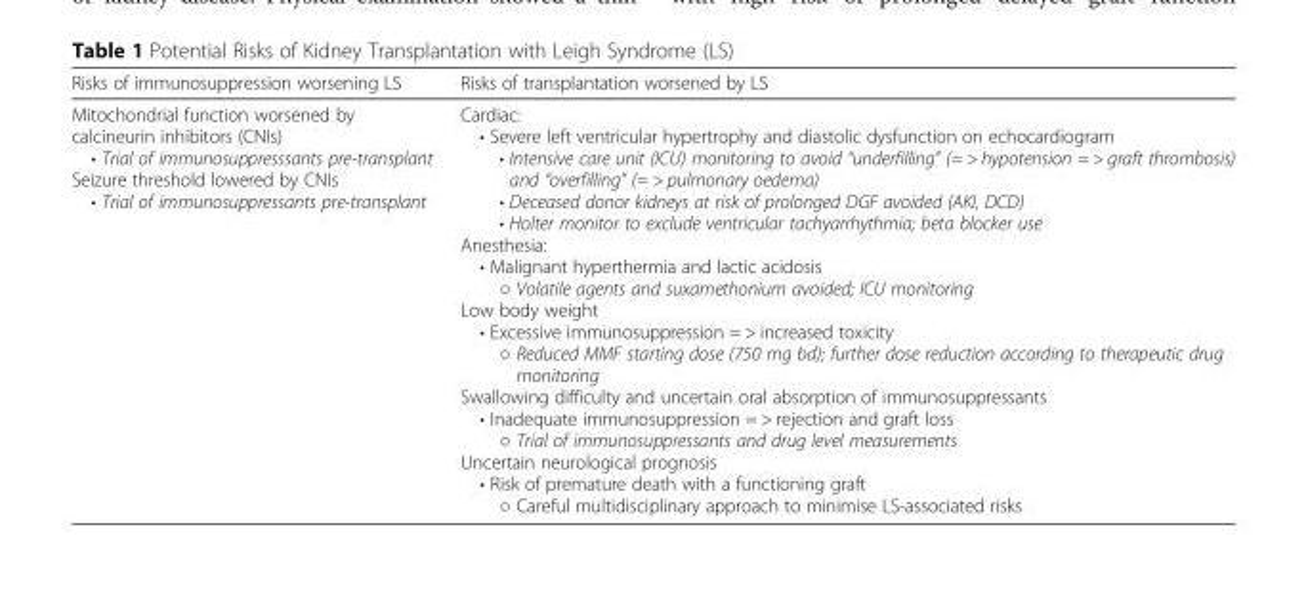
<table><thead><tr><td>Risks of immunosuppression worsening LS</td><td>Risks of transplantation worsened by LS</td></tr></thead><tbody><tr><td>Mitochondrial function worsened by calcineurin inhibitors (CNIs) • Trial of immunosuppresssants pre-transplant Seizure threshold lowered by CNIs • Trial of immunosuppressants pre-transplant</td><td>Cardiac: • Severe left ventricular hypertrophy and diastolic dysfunction on echocardiogram • Intensive care unit (ICU) monitoring to avoid “underfilling” (= &gt; hypotension = &gt; graft thrombosis) and “overfilling” (= &gt; pulmonary oedema) • Deceased donor kidneys at risk of prolonged DGF avoided (AKI, DCD) • Holter monitor to exclude ventricular tachyarrhythmia; beta blocker use Anesthesia: • Malignant hyperthermia and lactic acidosis ○ Volatile agents and suxamethonium avoided; ICU monitoring Low body weight • Excessive immunosuppression = &gt; increased toxicity ○ Reduced MMF starting dose (750 mg bd); further dose reduction according to therapeutic drug monitoring Swallowing difficulty and uncertain oral absorption of immunosuppressants • Inadequate immunosuppression = &gt; rejection and graft loss ○ Trial of immunosuppressants and drug level measurements Uncertain neurological prognosis • Risk of premature death with a functioning graft ○ Careful multidisciplinary approach to minimise LS-associated risks</td></tr></tbody></table>